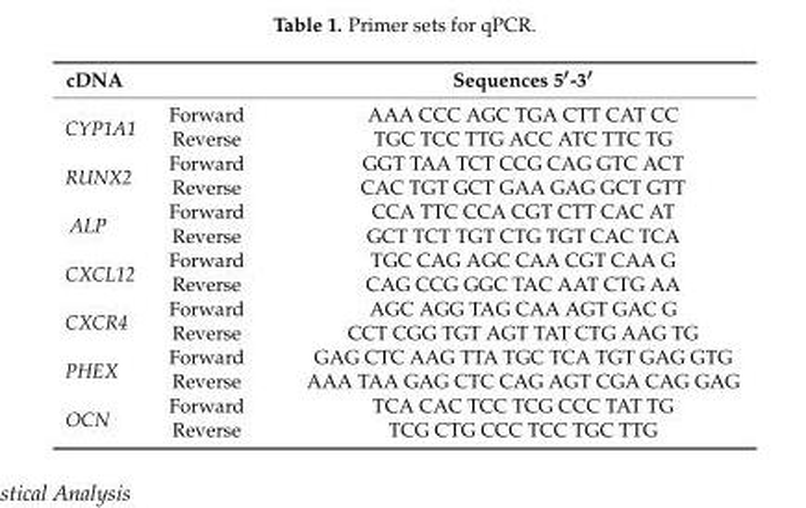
<table><thead><tr><td>cDNA</td><td></td><td>Sequences 5′-3′</td></tr></thead><tbody><tr><td rowspan="2">CYP1A1</td><td>Forward</td><td>AAA CCC AGC TGA CTT CAT CC</td></tr><tr><td>Reverse</td><td>TGC TCC TTG ACC ATC TTC TG</td></tr><tr><td rowspan="2">RUNX2</td><td>Forward</td><td>GGT TAA TCT CCG CAG GTC ACT</td></tr><tr><td>Reverse</td><td>CAC TGT GCT GAA GAG GCT GTT</td></tr><tr><td rowspan="2">ALP</td><td>Forward</td><td>CCA TTC CCA CGT CTT CAC AT</td></tr><tr><td>Reverse</td><td>GCT TCT TGT CTG TGT CAC TCA</td></tr><tr><td rowspan="2">CXCL12</td><td>Forward</td><td>TGC CAG AGC CAA CGT CAA G</td></tr><tr><td>Reverse</td><td>CAG CCG GGC TAC AAT CTG AA</td></tr><tr><td rowspan="2">CXCR4</td><td>Forward</td><td>AGC AGG TAG CAA AGT GAC G</td></tr><tr><td>Reverse</td><td>CCT CGG TGT AGT TAT CTG AAG TG</td></tr><tr><td rowspan="2">PHEX</td><td>Forward</td><td>GAG CTC AAG TTA TGC TCA TGT GAG GTG</td></tr><tr><td>Reverse</td><td>AAA TAA GAG CTC CAG AGT CGA CAG GAG</td></tr><tr><td rowspan="2">OCN</td><td>Forward</td><td>TCA CAC TCC TCG CCC TAT TG</td></tr><tr><td>Reverse</td><td>TCG CTG CCC TCC TGC TTG</td></tr></tbody></table>